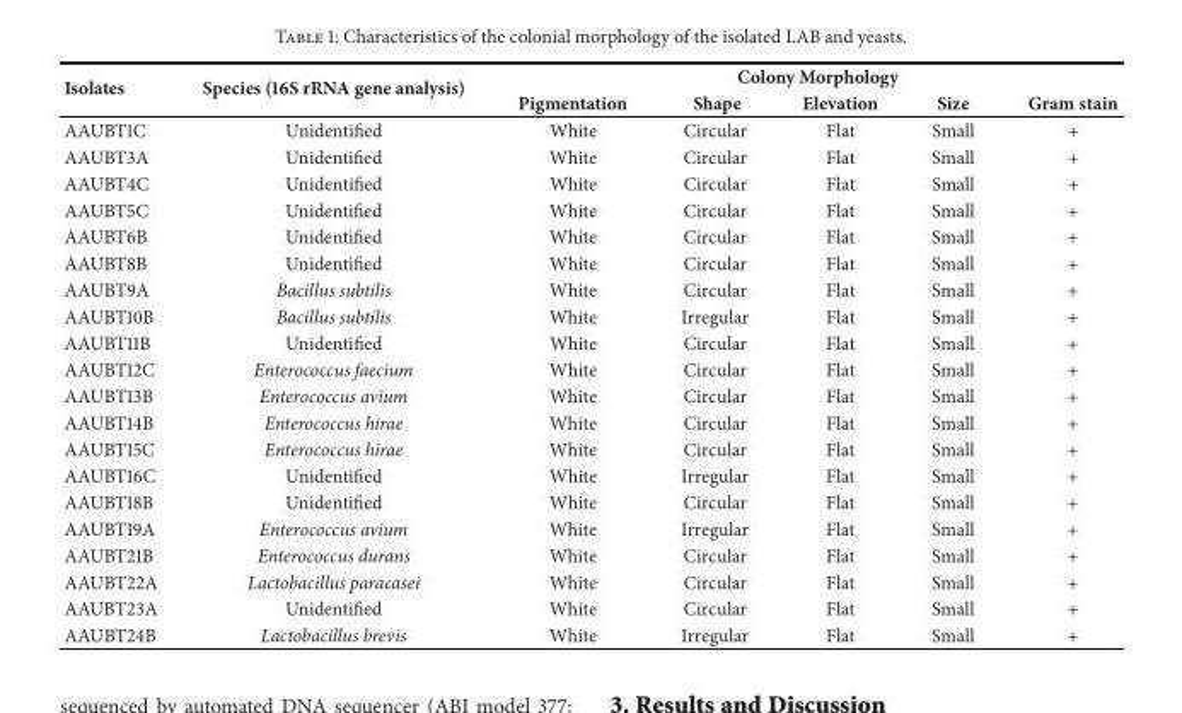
<table><thead><tr><td rowspan="2">Isolates</td><td rowspan="2">Species (16S rRNA gene analysis)</td><td colspan="5">Colony Morphology</td></tr><tr><td>Pigmentation</td><td>Shape</td><td>Elevation</td><td>Size</td><td>Gram stain</td></tr></thead><tbody><tr><td>AAUBT1C</td><td>Unidentified</td><td>White</td><td>Circular</td><td>Flat</td><td>Small</td><td>+</td></tr><tr><td>AAUBT3A</td><td>Unidentified</td><td>White</td><td>Circular</td><td>Flat</td><td>Small</td><td>+</td></tr><tr><td>AAUBT4C</td><td>Unidentified</td><td>White</td><td>Circular</td><td>Flat</td><td>Small</td><td>+</td></tr><tr><td>AAUBT5C</td><td>Unidentified</td><td>White</td><td>Circular</td><td>Flat</td><td>Small</td><td>+</td></tr><tr><td>AAUBT6B</td><td>Unidentified</td><td>White</td><td>Circular</td><td>Flat</td><td>Small</td><td>+</td></tr><tr><td>AAUBT8B</td><td>Unidentified</td><td>White</td><td>Circular</td><td>Flat</td><td>Small</td><td>+</td></tr><tr><td>AAUBT9A</td><td>Bacillus subtilis</td><td>White</td><td>Circular</td><td>Flat</td><td>Small</td><td>+</td></tr><tr><td>AAUBT10B</td><td>Bacillus subtilis</td><td>White</td><td>Irregular</td><td>Flat</td><td>Small</td><td>+</td></tr><tr><td>AAUBT11B</td><td>Unidentified</td><td>White</td><td>Circular</td><td>Flat</td><td>Small</td><td>+</td></tr><tr><td>AAUBT12C</td><td>Enterococcus faecium</td><td>White</td><td>Circular</td><td>Flat</td><td>Small</td><td>+</td></tr><tr><td>AAUBT13B</td><td>Enterococcus avium</td><td>White</td><td>Circular</td><td>Flat</td><td>Small</td><td>+</td></tr><tr><td>AAUBT14B</td><td>Enterococcus hirae</td><td>White</td><td>Circular</td><td>Flat</td><td>Small</td><td>+</td></tr><tr><td>AAUBT15C</td><td>Enterococcus hirae</td><td>White</td><td>Circular</td><td>Flat</td><td>Small</td><td>+</td></tr><tr><td>AAUBT16C</td><td>Unidentified</td><td>White</td><td>Irregular</td><td>Flat</td><td>Small</td><td>+</td></tr><tr><td>AAUBT18B</td><td>Unidentified</td><td>White</td><td>Circular</td><td>Flat</td><td>Small</td><td>+</td></tr><tr><td>AAUBT19A</td><td>Enterococcus avium</td><td>White</td><td>Irregular</td><td>Flat</td><td>Small</td><td>+</td></tr><tr><td>AAUBT21B</td><td>Enterococcus durans</td><td>White</td><td>Circular</td><td>Flat</td><td>Small</td><td>+</td></tr><tr><td>AAUBT22A</td><td>Lactobacillus paracasei</td><td>White</td><td>Circular</td><td>Flat</td><td>Small</td><td>+</td></tr><tr><td>AAUBT23A</td><td>Unidentified</td><td>White</td><td>Circular</td><td>Flat</td><td>Small</td><td>+</td></tr><tr><td>AAUBT24B</td><td>Lactobacillus brevis</td><td>White</td><td>Irregular</td><td>Flat</td><td>Small</td><td>+</td></tr></tbody></table>